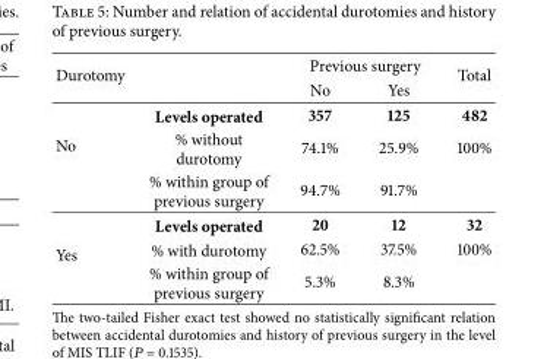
<table><thead><tr><td rowspan="2">Durotomy</td><td rowspan="2"></td><td colspan="2">Previous surgery</td><td rowspan="2">Total</td></tr><tr><td>No</td><td>Yes</td></tr></thead><tbody><tr><td></td><td>Levels operated</td><td>357</td><td>125</td><td>482</td></tr><tr><td rowspan="3">No</td><td>% without durotomy</td><td>74.1%</td><td>25.9%</td><td>100%</td></tr><tr><td>% within group of previous surgery</td><td>94.7%</td><td>91.7%</td><td></td></tr><tr><td>Levels operated</td><td>20</td><td>12</td><td>32</td></tr><tr><td rowspan="2">Yes</td><td>% with durotomy</td><td>62.5%</td><td>37.5%</td><td>100%</td></tr><tr><td>% within group of previous surgery</td><td>5.3%</td><td>8.3%</td><td></td></tr></tbody></table>